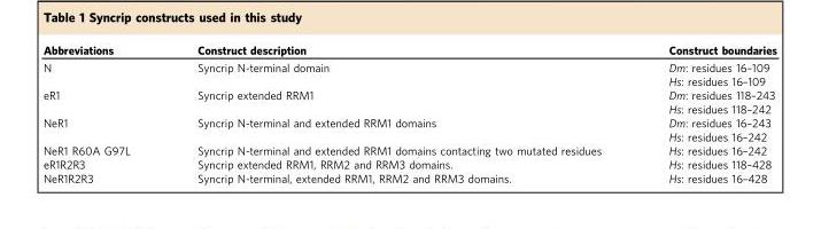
<table><thead><tr><td>Abbreviations</td><td>Construct description</td><td>Construct boundaries</td></tr></thead><tbody><tr><td rowspan="2">N</td><td rowspan="2">Syncrip N-terminal domain</td><td>Dm: residues 16–109</td></tr><tr><td>Hs: residues 16–109</td></tr><tr><td rowspan="2">eR1</td><td rowspan="2">Syncrip extended RRM1</td><td>Dm: residues 118–243</td></tr><tr><td>Hs: residues 118–242</td></tr><tr><td rowspan="2">NeR1</td><td rowspan="2">Syncrip N-terminal and extended RRM1 domains</td><td>Dm: residues 16–243</td></tr><tr><td>Hs: residues 16–242</td></tr><tr><td>NeR1 R60A G97L</td><td>Syncrip N-terminal and extended RRM1 domains contacting two mutated residues</td><td>Hs: residues 16–242</td></tr><tr><td>eR1R2R3</td><td>Syncrip extended RRM1, RRM2 and RRM3 domains.</td><td>Hs: residues 118–428</td></tr><tr><td>NeR1R2R3</td><td>Syncrip N-terminal, extended RRM1, RRM2 and RRM3 domains.</td><td>Hs: residues 16–428</td></tr></tbody></table>